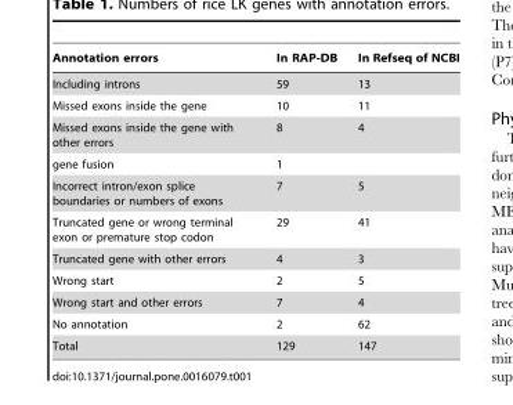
<table><thead><tr><td>Annotation errors</td><td>In RAP-DB</td><td>In Refseq of NCBI</td></tr></thead><tbody><tr><td>Including introns</td><td>59</td><td>13</td></tr><tr><td>Missed exons inside the gene</td><td>10</td><td>11</td></tr><tr><td>Missed exons inside the gene with other errors</td><td>8</td><td>4</td></tr><tr><td>gene fusion</td><td>1</td><td></td></tr><tr><td>Incorrect intron/exon splice boundaries or numbers of exons</td><td>7</td><td>5</td></tr><tr><td>Truncated gene or wrong terminal exon or premature stop codon</td><td>29</td><td>41</td></tr><tr><td>Truncated gene with other errors</td><td>4</td><td>3</td></tr><tr><td>Wrong start</td><td>2</td><td>5</td></tr><tr><td>Wrong start and other errors</td><td>7</td><td>4</td></tr><tr><td>No annotation</td><td>2</td><td>62</td></tr><tr><td>Total</td><td>129</td><td>147</td></tr></tbody></table>